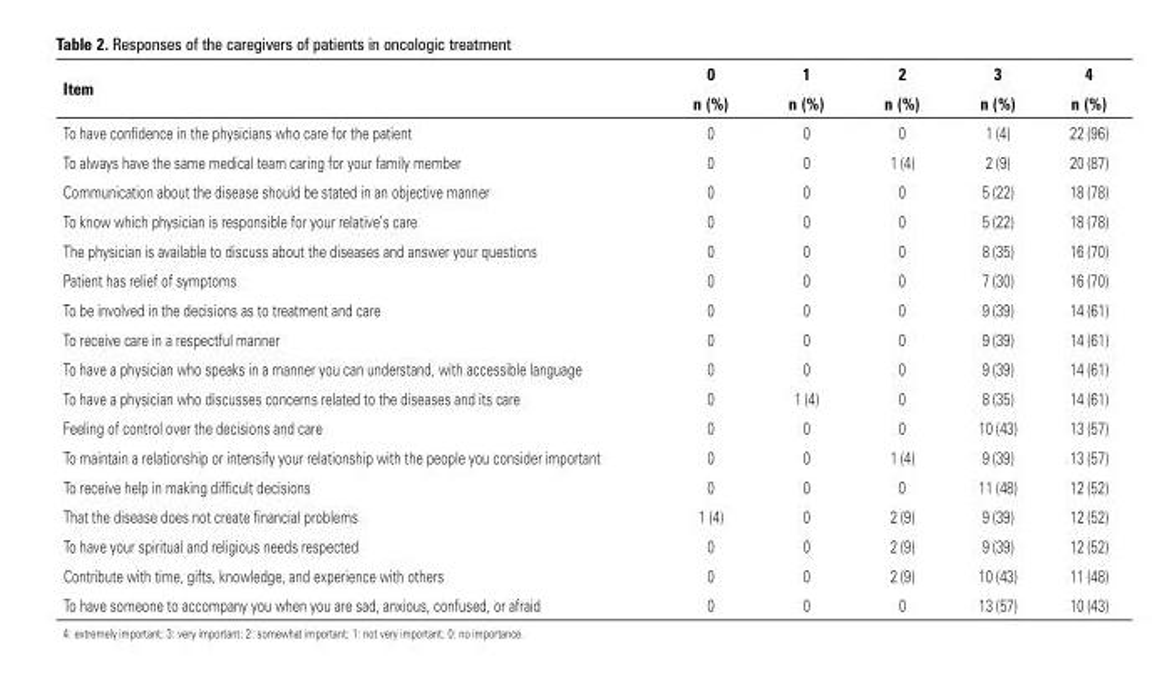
<table><thead><tr><td rowspan="2">Item</td><td rowspan="2">0 n (%)</td><td rowspan="2">1 n (%)</td><td rowspan="2">2 n (%)</td><td rowspan="2">3 n (%)</td><td rowspan="2">4 n (%)</td></tr><tr></tr></thead><tbody><tr><td>To have confidence in the physicians who care for the patient</td><td>0</td><td>0</td><td>0</td><td>1 (4)</td><td>22 (96)</td></tr><tr><td>To always have the same medical team caring for your family member</td><td>0</td><td>0</td><td>1 (4)</td><td>2 (9)</td><td>20 (87)</td></tr><tr><td>Communication about the disease should be stated in an objective manner</td><td>0</td><td>0</td><td>0</td><td>5 (22)</td><td>18 (78)</td></tr><tr><td>To know which physician is responsible for your relative’s care</td><td>0</td><td>0</td><td>0</td><td>5 (22)</td><td>18 (78)</td></tr><tr><td>The physician is available to discuss about the diseases and answer your questions</td><td>0</td><td>0</td><td>0</td><td>8 (35)</td><td>16 (70)</td></tr><tr><td>Patient has relief of symptoms</td><td>0</td><td>0</td><td>0</td><td>7 (30)</td><td>16 (70)</td></tr><tr><td>To be involved in the decisions as to treatment and care</td><td>0</td><td>0</td><td>0</td><td>9 (39)</td><td>14 (61)</td></tr><tr><td>To receive care in a respectful manner</td><td>0</td><td>0</td><td>0</td><td>9 (39)</td><td>14 (61)</td></tr><tr><td>To have a physician who speaks in a manner you can understand, with accessible language</td><td>0</td><td>0</td><td>0</td><td>9 (39)</td><td>14 (61)</td></tr><tr><td>To have a physician who discusses concerns related to the diseases and its care</td><td>0</td><td>1 (4)</td><td>0</td><td>8 (35)</td><td>14 (61)</td></tr><tr><td>Feeling of control over the decisions and care</td><td>0</td><td>0</td><td>0</td><td>10 (43)</td><td>13 (57)</td></tr><tr><td>To maintain a relationship or intensify your relationship with the people you consider important</td><td>0</td><td>0</td><td>1 (4)</td><td>9 (39)</td><td>13 (57)</td></tr><tr><td>To receive help in making difficult decisions</td><td>0</td><td>0</td><td>0</td><td>11 (48)</td><td>12 (52)</td></tr><tr><td>That the disease does not create financial problems</td><td>1 (4)</td><td>0</td><td>2 (9)</td><td>9 (39)</td><td>12 (52)</td></tr><tr><td>To have your spiritual and religious needs respected</td><td>0</td><td>0</td><td>2 (9)</td><td>9 (39)</td><td>12 (52)</td></tr><tr><td>Contribute with time, gifts, knowledge, and experience with others</td><td>0</td><td>0</td><td>2 (9)</td><td>10 (43)</td><td>11 (48)</td></tr><tr><td>To have someone to accompany you when you are sad, anxious, confused, or afraid</td><td>0</td><td>0</td><td>0</td><td>13 (57)</td><td>10 (43)</td></tr></tbody></table>